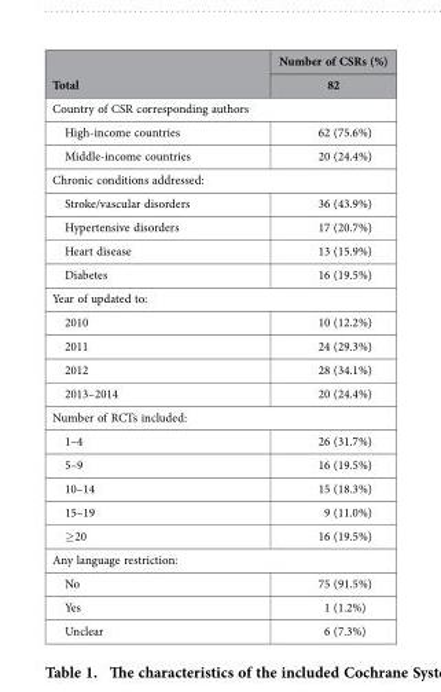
<table><thead><tr><td rowspan="2">Total</td><td rowspan="2">Number of CSRs (%) 82</td></tr><tr></tr></thead><tbody><tr><td colspan="2">Country of CSR corresponding authors</td></tr><tr><td>High-income countries</td><td>62 (75.6%)</td></tr><tr><td>Middle-income countries</td><td>20 (24.4%)</td></tr><tr><td colspan="2">Chronic conditions addressed:</td></tr><tr><td>Stroke/vascular disorders</td><td>36 (43.9%)</td></tr><tr><td>Hypertensive disorders</td><td>17 (20.7%)</td></tr><tr><td>Heart disease</td><td>13 (15.9%)</td></tr><tr><td>Diabetes</td><td>16 (19.5%)</td></tr><tr><td colspan="2">Year of updated to:</td></tr><tr><td>2010</td><td>10 (12.2%)</td></tr><tr><td>2011</td><td>24 (29.3%)</td></tr><tr><td>2012</td><td>28 (34.1%)</td></tr><tr><td>2013–2014</td><td>20 (24.4%)</td></tr><tr><td colspan="2">Number of RCTs included:</td></tr><tr><td>1–4</td><td>26 (31.7%)</td></tr><tr><td>5–9</td><td>16 (19.5%)</td></tr><tr><td>10–14</td><td>15 (18.3%)</td></tr><tr><td>15–19</td><td>9 (11.0%)</td></tr><tr><td>≥ 20</td><td>16 (19.5%)</td></tr><tr><td colspan="2">Any language restriction:</td></tr><tr><td>No</td><td>75 (91.5%)</td></tr><tr><td>Yes</td><td>1 (1.2%)</td></tr><tr><td>Unclear</td><td>6 (7.3%)</td></tr></tbody></table>